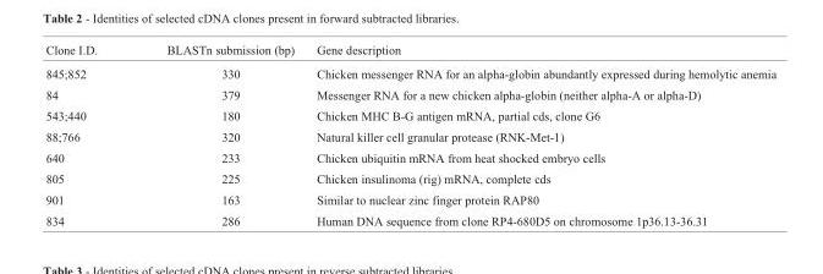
<table><thead><tr><td>Clone I.D.</td><td>BLASTn submission (bp)</td><td>Gene description</td></tr></thead><tbody><tr><td>845;852</td><td>330</td><td>Chicken messenger RNA for an alpha-globin abundantly expressed during hemolytic anemia</td></tr><tr><td>84</td><td>379</td><td>Messenger RNA for a new chicken alpha-globin (neither alpha-A or alpha-D)</td></tr><tr><td>543;440</td><td>180</td><td>Chicken MHC B-G antigen mRNA, partial cds, clone G6</td></tr><tr><td>88;766</td><td>320</td><td>Natural killer cell granular protease (RNK-Met-1)</td></tr><tr><td>640</td><td>233</td><td>Chicken ubiquitin mRNA from heat shocked embryo cells</td></tr><tr><td>805</td><td>225</td><td>Chicken insulinoma (rig) mRNA, complete cds</td></tr><tr><td>901</td><td>163</td><td>Similar to nuclear zinc finger protein RAP80</td></tr><tr><td>834</td><td>286</td><td>Human DNA sequence from clone RP4-680D5 on chromosome 1p36.13-36.31</td></tr></tbody></table>